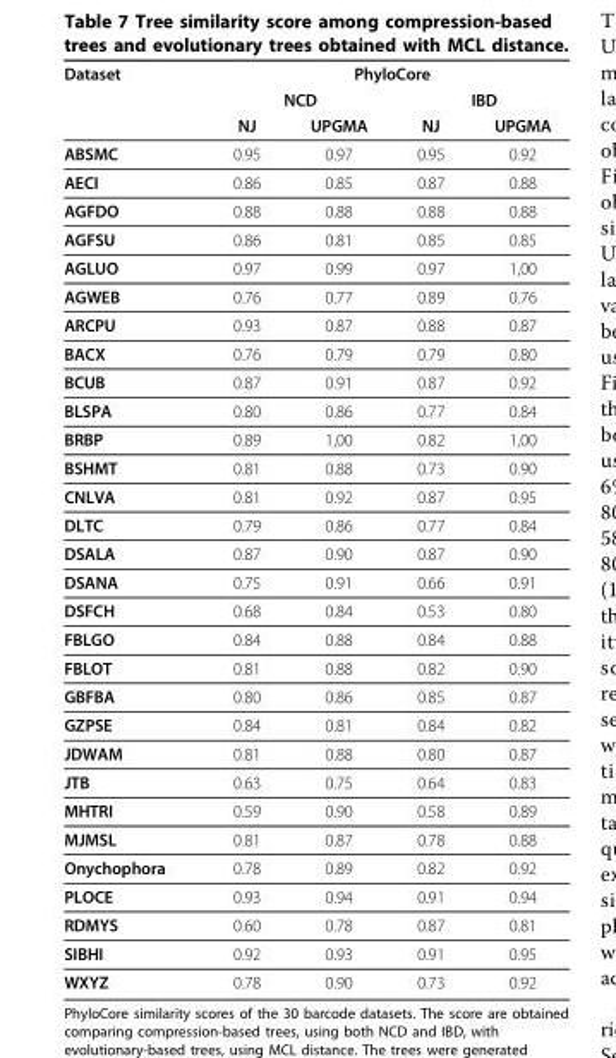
<table><thead><tr><td rowspan="3">Dataset</td><td colspan="4">PhyloCore</td></tr><tr><td colspan="2">NCD</td><td colspan="2">IBD</td></tr><tr><td>NJ</td><td>UPGMA</td><td>NJ</td><td>UPGMA</td></tr></thead><tbody><tr><td>ABSMC</td><td>0.95</td><td>0.97</td><td>0.95</td><td>0.92</td></tr><tr><td>AECI</td><td>0.86</td><td>0.85</td><td>0.87</td><td>0.88</td></tr><tr><td>AGFDO</td><td>0.88</td><td>0.88</td><td>0.88</td><td>0.88</td></tr><tr><td>AGFSU</td><td>0.86</td><td>0.81</td><td>0.85</td><td>0.85</td></tr><tr><td>AGLUO</td><td>0.97</td><td>0.99</td><td>0.97</td><td>1,00</td></tr><tr><td>AGWEB</td><td>0.76</td><td>0.77</td><td>0.89</td><td>0.76</td></tr><tr><td>ARCPU</td><td>0.93</td><td>0.87</td><td>0.88</td><td>0.87</td></tr><tr><td>BACX</td><td>0.76</td><td>0.79</td><td>0.79</td><td>0.80</td></tr><tr><td>BCUB</td><td>0.87</td><td>0.91</td><td>0.87</td><td>0.92</td></tr><tr><td>BLSPA</td><td>0.80</td><td>0.86</td><td>0.77</td><td>0.84</td></tr><tr><td>BRBP</td><td>0.89</td><td>1,00</td><td>0.82</td><td>1,00</td></tr><tr><td>BSHMT</td><td>0.81</td><td>0.88</td><td>0.73</td><td>0.90</td></tr><tr><td>CNLVA</td><td>0.81</td><td>0.92</td><td>0.87</td><td>0.95</td></tr><tr><td>DLTC</td><td>0.79</td><td>0.86</td><td>0.77</td><td>0.84</td></tr><tr><td>DSALA</td><td>0.87</td><td>0.90</td><td>0.87</td><td>0.90</td></tr><tr><td>DSANA</td><td>0.75</td><td>0.91</td><td>0.66</td><td>0.91</td></tr><tr><td>DSFCH</td><td>0.68</td><td>0.84</td><td>0.53</td><td>0.80</td></tr><tr><td>FBLGO</td><td>0.84</td><td>0.88</td><td>0.84</td><td>0.88</td></tr><tr><td>FBLOT</td><td>0.81</td><td>0.88</td><td>0.82</td><td>0.90</td></tr><tr><td>GBFBA</td><td>0.80</td><td>0.86</td><td>0.85</td><td>0.87</td></tr><tr><td>GZPSE</td><td>0.84</td><td>0.81</td><td>0.84</td><td>0.82</td></tr><tr><td>JDWAM</td><td>0.81</td><td>0.88</td><td>0.80</td><td>0.87</td></tr><tr><td>JTB</td><td>0.63</td><td>0.75</td><td>0.64</td><td>0.83</td></tr><tr><td>MHTRI</td><td>0.59</td><td>0.90</td><td>0.58</td><td>0.89</td></tr><tr><td>MJMSL</td><td>0.81</td><td>0.87</td><td>0.78</td><td>0.88</td></tr><tr><td>Onychophora</td><td>0.78</td><td>0.89</td><td>0.82</td><td>0.92</td></tr><tr><td>PLOCE</td><td>0.93</td><td>0.94</td><td>0.91</td><td>0.94</td></tr><tr><td>RDMYS</td><td>0.60</td><td>0.78</td><td>0.87</td><td>0.81</td></tr><tr><td>SIBHI</td><td>0.92</td><td>0.93</td><td>0.91</td><td>0.95</td></tr><tr><td>WXYZ</td><td>0.78</td><td>0.90</td><td>0.73</td><td>0.92</td></tr></tbody></table>